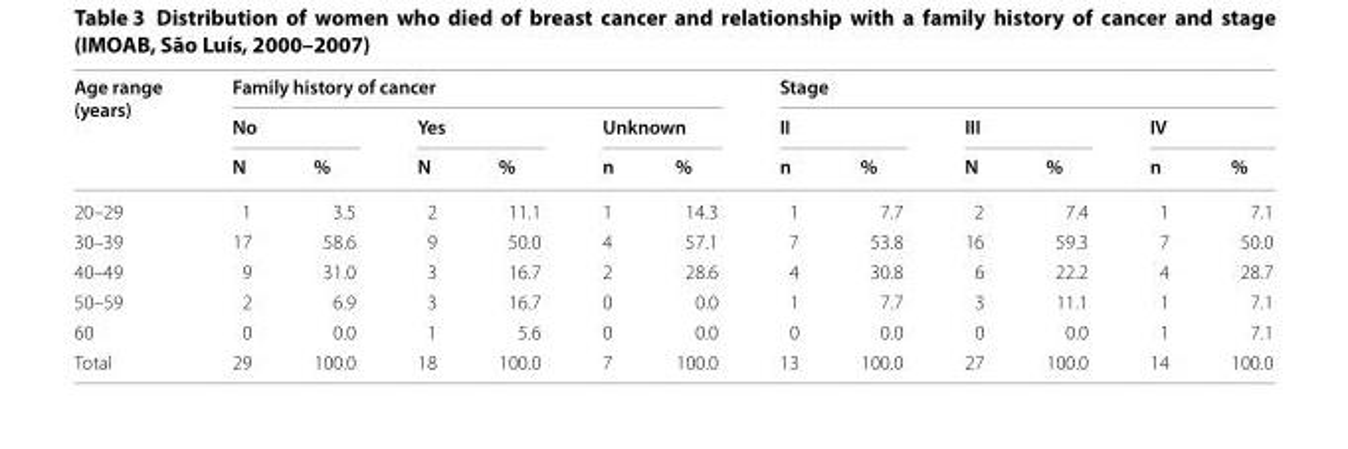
<table><thead><tr><td rowspan="3">Age range (years)</td><td colspan="6">Family history of cancer</td><td colspan="6">Stage</td></tr><tr><td colspan="2">No</td><td colspan="2">Yes</td><td colspan="2">Unknown</td><td colspan="2">II</td><td colspan="2">III</td><td colspan="2">IV</td></tr><tr><td>N</td><td>%</td><td>N</td><td>%</td><td>n</td><td>%</td><td>n</td><td>%</td><td>N</td><td>%</td><td>n</td><td>%</td></tr></thead><tbody><tr><td>20–29</td><td>1</td><td>3.5</td><td>2</td><td>11.1</td><td>1</td><td>14.3</td><td>1</td><td>7.7</td><td>2</td><td>7.4</td><td>1</td><td>7.1</td></tr><tr><td>30–39</td><td>17</td><td>58.6</td><td>9</td><td>50.0</td><td>4</td><td>57.1</td><td>7</td><td>53.8</td><td>16</td><td>59.3</td><td>7</td><td>50.0</td></tr><tr><td>40–49</td><td>9</td><td>31.0</td><td>3</td><td>16.7</td><td>2</td><td>28.6</td><td>4</td><td>30.8</td><td>6</td><td>22.2</td><td>4</td><td>28.7</td></tr><tr><td>50–59</td><td>2</td><td>6.9</td><td>3</td><td>16.7</td><td>0</td><td>0.0</td><td>1</td><td>7.7</td><td>3</td><td>11.1</td><td>1</td><td>7.1</td></tr><tr><td>60</td><td>0</td><td>0.0</td><td>1</td><td>5.6</td><td>0</td><td>0.0</td><td>0</td><td>0.0</td><td>0</td><td>0.0</td><td>1</td><td>7.1</td></tr><tr><td>Total</td><td>29</td><td>100.0</td><td>18</td><td>100.0</td><td>7</td><td>100.0</td><td>13</td><td>100.0</td><td>27</td><td>100.0</td><td>14</td><td>100.0</td></tr></tbody></table>